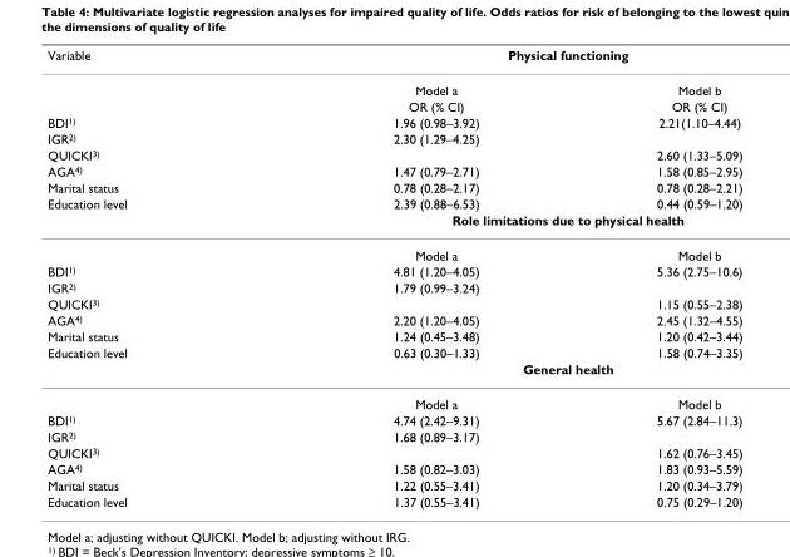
<table><thead><tr><td rowspan="2">Variable</td><td colspan="2">Physical functioning</td></tr><tr><td>Model a</td><td>Model b</td></tr></thead><tbody><tr><td></td><td>OR (% CI)</td><td>OR (% CI)</td></tr><tr><td>BDI<sup>1)</sup></td><td>1.96 (0.98–3.92)</td><td>2.21(1.10–4.44)</td></tr><tr><td>IGR<sup>2)</sup></td><td>2.30 (1.29–4.25)</td><td></td></tr><tr><td>QUICKI<sup>3)</sup></td><td></td><td>2.60 (1.33–5.09)</td></tr><tr><td>AGA<sup>4)</sup></td><td>1.47 (0.79–2.71)</td><td>1.58 (0.85–2.95)</td></tr><tr><td>Marital status</td><td>0.78 (0.28–2.17)</td><td>0.78 (0.28–2.21)</td></tr><tr><td rowspan="3">Education level</td><td>2.39 (0.88–6.53)</td><td>0.44 (0.59–1.20)</td></tr><tr><td colspan="2">Role limitations due to physical health</td></tr><tr><td>Model a</td><td>Model b</td></tr><tr><td>BDI<sup>1)</sup></td><td>4.81 (1.20–4.05)</td><td>5.36 (2.75–10.6)</td></tr><tr><td>IGR<sup>2)</sup></td><td>1.79 (0.99–3.24)</td><td></td></tr><tr><td>QUICKI<sup>3)</sup></td><td></td><td>1.15 (0.55–2.38)</td></tr><tr><td>AGA<sup>4)</sup></td><td>2.20 (1.20–4.05)</td><td>2.45 (1.32–4.55)</td></tr><tr><td>Marital status</td><td>1.24 (0.45–3.48)</td><td>1.20 (0.42–3.44)</td></tr><tr><td rowspan="3">Education level</td><td>0.63 (0.30–1.33)</td><td>1.58 (0.74–3.35)</td></tr><tr><td colspan="2">General health</td></tr><tr><td>Model a</td><td>Model b</td></tr><tr><td>BDI<sup>1)</sup></td><td>4.74 (2.42–9.31)</td><td>5.67 (2.84–11.3)</td></tr><tr><td>IGR<sup>2)</sup></td><td>1.68 (0.89–3.17)</td><td></td></tr><tr><td>QUICKI<sup>3)</sup></td><td></td><td>1.62 (0.76–3.45)</td></tr><tr><td>AGA<sup>4)</sup></td><td>1.58 (0.82–3.03)</td><td>1.83 (0.93–5.59)</td></tr><tr><td>Marital status</td><td>1.22 (0.55–3.41)</td><td>1.20 (0.34–3.79)</td></tr><tr><td>Education level</td><td>1.37 (0.55–3.41)</td><td>0.75 (0.29–1.20)</td></tr></tbody></table>